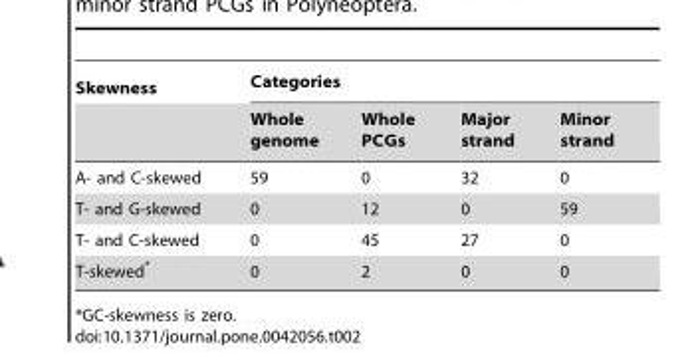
<table><thead><tr><td rowspan="2">Skewness</td><td colspan="4">Categories</td></tr><tr><td>Whole genome</td><td>Whole PCGs</td><td>Major strand</td><td>Minor strand</td></tr></thead><tbody><tr><td>A- and C-skewed</td><td>59</td><td>0</td><td>32</td><td>0</td></tr><tr><td>T- and G-skewed</td><td>0</td><td>12</td><td>0</td><td>59</td></tr><tr><td>T- and C-skewed</td><td>0</td><td>45</td><td>27</td><td>0</td></tr><tr><td>T-skewed*</td><td>0</td><td>2</td><td>0</td><td>0</td></tr></tbody></table>